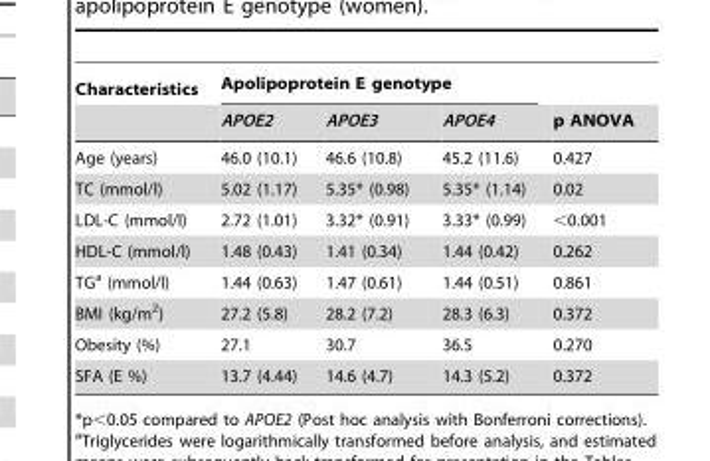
<table><thead><tr><td rowspan="2">Characteristics</td><td colspan="3">Apolipoprotein E genotype</td><td rowspan="2">p ANOVA</td></tr><tr><td>APOE2</td><td>APOE3</td><td>APOE4</td></tr></thead><tbody><tr><td>Age (years)</td><td>46.0 (10.1)</td><td>46.6 (10.8)</td><td>45.2 (11.6)</td><td>0.427</td></tr><tr><td>TC (mmol/l)</td><td>5.02 (1.17)</td><td>5.35* (0.98)</td><td>5.35* (1.14)</td><td>0.02</td></tr><tr><td>LDL-C (mmol/l)</td><td>2.72 (1.01)</td><td>3.32* (0.91)</td><td>3.33* (0.99)</td><td>&lt;0.001</td></tr><tr><td>HDL-C (mmol/l)</td><td>1.48 (0.43)</td><td>1.41 (0.34)</td><td>1.44 (0.42)</td><td>0.262</td></tr><tr><td>TG<sup>a</sup> (mmol/l)</td><td>1.44 (0.63)</td><td>1.47 (0.61)</td><td>1.44 (0.51)</td><td>0.861</td></tr><tr><td>BMI (kg/m<sup>2</sup>)</td><td>27.2 (5.8)</td><td>28.2 (7.2)</td><td>28.3 (6.3)</td><td>0.372</td></tr><tr><td>Obesity (%)</td><td>27.1</td><td>30.7</td><td>36.5</td><td>0.270</td></tr><tr><td>SFA (E %)</td><td>13.7 (4.44)</td><td>14.6 (4.7)</td><td>14.3 (5.2)</td><td>0.372</td></tr></tbody></table>